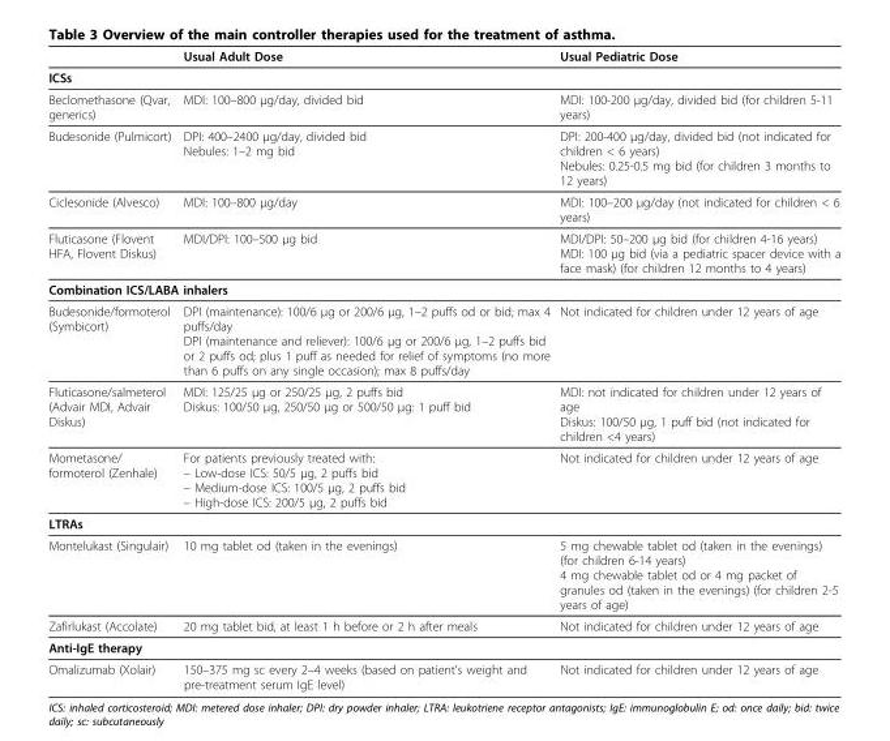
<table><thead><tr><td></td><td>Usual Adult Dose</td><td>Usual Pediatric Dose</td></tr></thead><tbody><tr><td colspan="3">ICSs</td></tr><tr><td>Beclomethasone (Qvar, generics)</td><td>MDI: 100–800 µg/day, divided bid</td><td>MDI: 100-200 μg/day, divided bid (for children 5-11 years)</td></tr><tr><td>Budesonide (Pulmicort)</td><td>DPI: 400–2400 µg/day, divided bid Nebules: 1–2 mg bid</td><td>DPI: 200-400 μg/day, divided bid (not indicated for children &lt; 6 years) Nebules: 0.25-0.5 mg bid (for children 3 months to 12 years)</td></tr><tr><td>Ciclesonide (Alvesco)</td><td>MDI: 100–800 µg/day</td><td>MDI: 100–200 µg/day (not indicated for children &lt; 6 years)</td></tr><tr><td>Fluticasone (Flovent HFA, Flovent Diskus)</td><td>MDI/DPI: 100–500 µg bid</td><td>MDI/DPI: 50–200 µg bid (for children 4-16 years) MDI: 100 µg bid (via a pediatric spacer device with a face mask) (for children 12 months to 4 years)</td></tr><tr><td colspan="3">Combination ICS/LABA inhalers</td></tr><tr><td>Budesonide/formoterol (Symbicort)</td><td>DPI (maintenance): 100/6 µg or 200/6 µg, 1–2 puffs od or bid; max 4 puffs/day DPI (maintenance and reliever): 100/6 µg or 200/6 µg, 1–2 puffs bid or 2 puffs od; plus 1 puff as needed for relief of symptoms (no more than 6 puffs on any single occasion); max 8 puffs/day</td><td>Not indicated for children under 12 years of age</td></tr><tr><td>Fluticasone/salmeterol (Advair MDI, Advair Diskus)</td><td>MDI: 125/25 µg or 250/25 µg, 2 puffs bid Diskus: 100/50 µg, 250/50 µg or 500/50 µg: 1 puff bid</td><td>MDI: not indicated for children under 12 years of age Diskus: 100/50 µg, 1 puff bid (not indicated for children &lt;4 years)</td></tr><tr><td>Mometasone/ formoterol (Zenhale)</td><td>For patients previously treated with: – Low-dose ICS: 50/5 µg, 2 puffs bid – Medium-dose ICS: 100/5 µg, 2 puffs bid – High-dose ICS: 200/5 µg, 2 puffs bid</td><td>Not indicated for children under 12 years of age</td></tr><tr><td colspan="3">LTRAs</td></tr><tr><td>Montelukast (Singulair)</td><td>10 mg tablet od (taken in the evenings)</td><td>5 mg chewable tablet od (taken in the evenings) (for children 6-14 years) 4 mg chewable tablet od or 4 mg packet of granules od (taken in the evenings) (for children 2-5 years of age)</td></tr><tr><td>Zafirlukast (Accolate)</td><td>20 mg tablet bid, at least 1 h before or 2 h after meals</td><td>Not indicated for children under 12 years of age</td></tr><tr><td colspan="3">Anti-IgE therapy</td></tr><tr><td>Omalizumab (Xolair)</td><td>150–375 mg sc every 2–4 weeks (based on patient’s weight and pre-treatment serum IgE level)</td><td>Not indicated for children under 12 years of age</td></tr></tbody></table>